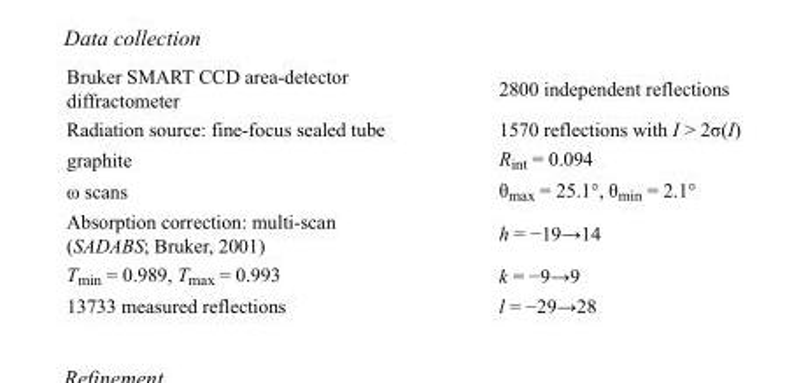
<table><tbody><tr><td>Bruker SMART CCD area-detector diffractometer</td><td>2800 independent reflections</td></tr><tr><td>Radiation source: fine-focus sealed tube</td><td>1570 reflections with I &gt; 2σ(I)</td></tr><tr><td>graphite</td><td>R<sub>int</sub> = 0.094</td></tr><tr><td>ω scans</td><td>θ<sub>max</sub> = 25.1°, θ<sub>min</sub> = 2.1°</td></tr><tr><td>Absorption correction: multi-scan (SADABS; Bruker, 2001)</td><td>h = −19→14</td></tr><tr><td>T<sub>min</sub> = 0.989, T<sub>max</sub> = 0.993</td><td>k = −9→9</td></tr><tr><td>13733 measured reflections</td><td>l = −29→28</td></tr></tbody></table>